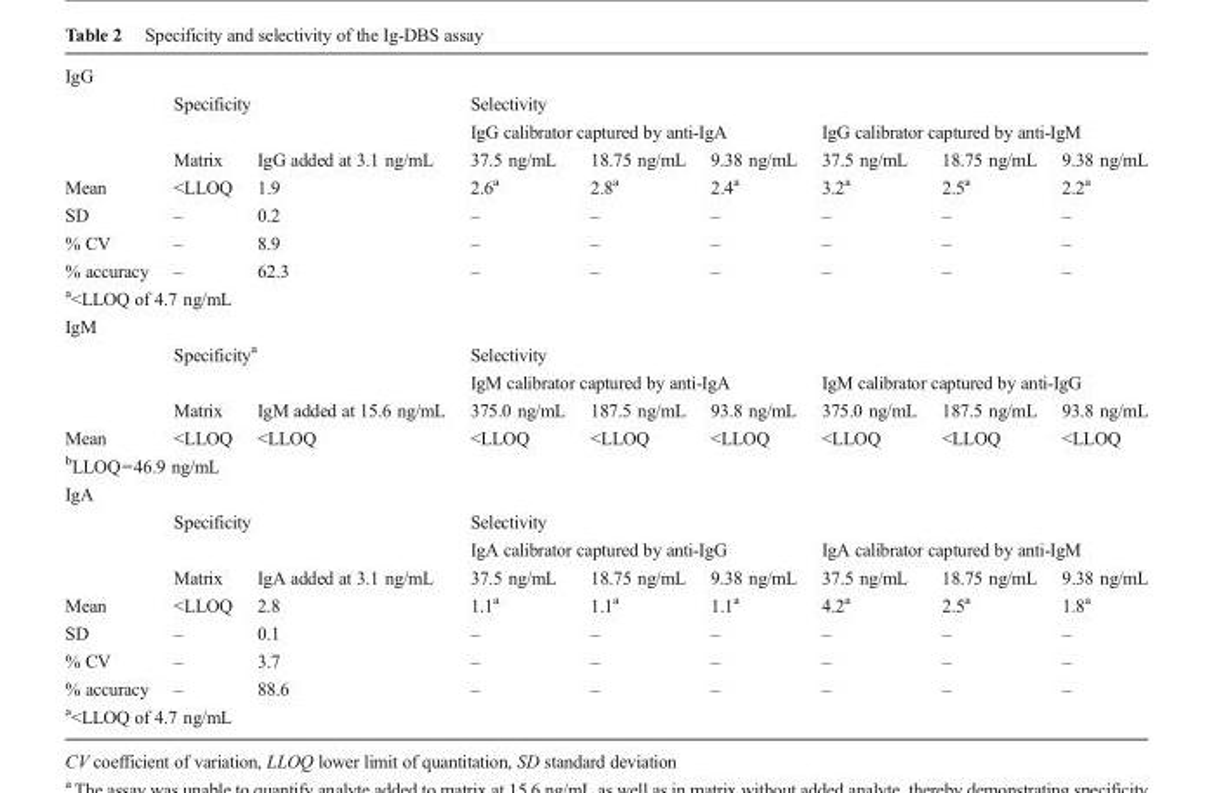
<table><tbody><tr><td colspan="9">IgG</td></tr><tr><td></td><td colspan="2">Specificity</td><td colspan="6">Selectivity</td></tr><tr><td></td><td></td><td></td><td colspan="3">IgG calibrator captured by anti-IgA</td><td colspan="3">IgG calibrator captured by anti-IgM</td></tr><tr><td></td><td>Matrix</td><td>IgG added at 3.1 ng/mL</td><td>37.5 ng/mL</td><td>18.75 ng/mL</td><td>9.38 ng/mL</td><td>37.5 ng/mL</td><td>18.75 ng/mL</td><td>9.38 ng/mL</td></tr><tr><td>Mean</td><td>&lt;LLOQ</td><td>1.9</td><td>2.6a</td><td>2.8a</td><td>2.4a</td><td>3.2a</td><td>2.5a</td><td>2.2a</td></tr><tr><td>SD</td><td>–</td><td>0.2</td><td>–</td><td>–</td><td>–</td><td>–</td><td>–</td><td>–</td></tr><tr><td>% CV</td><td>–</td><td>8.9</td><td>–</td><td>–</td><td>–</td><td>–</td><td>–</td><td>–</td></tr><tr><td>% accuracy</td><td>–</td><td>62.3</td><td>–</td><td>–</td><td>–</td><td>–</td><td>–</td><td>–</td></tr><tr><td colspan="9">a&lt;LLOQ of 4.7 ng/mL</td></tr><tr><td colspan="9">IgM</td></tr><tr><td></td><td colspan="2">Specificitya</td><td colspan="6">Selectivity</td></tr><tr><td></td><td></td><td></td><td colspan="3">IgM calibrator captured by anti-IgA</td><td colspan="3">IgM calibrator captured by anti-IgG</td></tr><tr><td></td><td>Matrix</td><td>IgM added at 15.6 ng/mL</td><td>375.0 ng/mL</td><td>187.5 ng/mL</td><td>93.8 ng/mL</td><td>375.0 ng/mL</td><td>187.5 ng/mL</td><td>93.8 ng/mL</td></tr><tr><td>Mean</td><td>&lt;LLOQ</td><td>&lt;LLOQ</td><td>&lt;LLOQ</td><td>&lt;LLOQ</td><td>&lt;LLOQ</td><td>&lt;LLOQ</td><td>&lt;LLOQ</td><td>&lt;LLOQ</td></tr><tr><td colspan="9">bLLOQ=46.9 ng/mL</td></tr><tr><td colspan="9">IgA</td></tr><tr><td></td><td colspan="2">Specificity</td><td colspan="6">Selectivity</td></tr><tr><td></td><td></td><td></td><td colspan="3">IgA calibrator captured by anti-IgG</td><td colspan="3">IgA calibrator captured by anti-IgM</td></tr><tr><td></td><td>Matrix</td><td>IgA added at 3.1 ng/mL</td><td>37.5 ng/mL</td><td>18.75 ng/mL</td><td>9.38 ng/mL</td><td>37.5 ng/mL</td><td>18.75 ng/mL</td><td>9.38 ng/mL</td></tr><tr><td>Mean</td><td>&lt;LLOQ</td><td>2.8</td><td>1.1a</td><td>1.1a</td><td>1.1a</td><td>4.2a</td><td>2.5a</td><td>1.8a</td></tr><tr><td>SD</td><td>–</td><td>0.1</td><td>–</td><td>–</td><td>–</td><td>–</td><td>–</td><td>–</td></tr><tr><td>% CV</td><td>–</td><td>3.7</td><td>–</td><td>–</td><td>–</td><td>–</td><td>–</td><td>–</td></tr><tr><td>% accuracy</td><td>–</td><td>88.6</td><td>–</td><td>–</td><td>–</td><td>–</td><td>–</td><td>–</td></tr><tr><td colspan="9">a&lt;LLOQ of 4.7 ng/mL</td></tr></tbody></table>